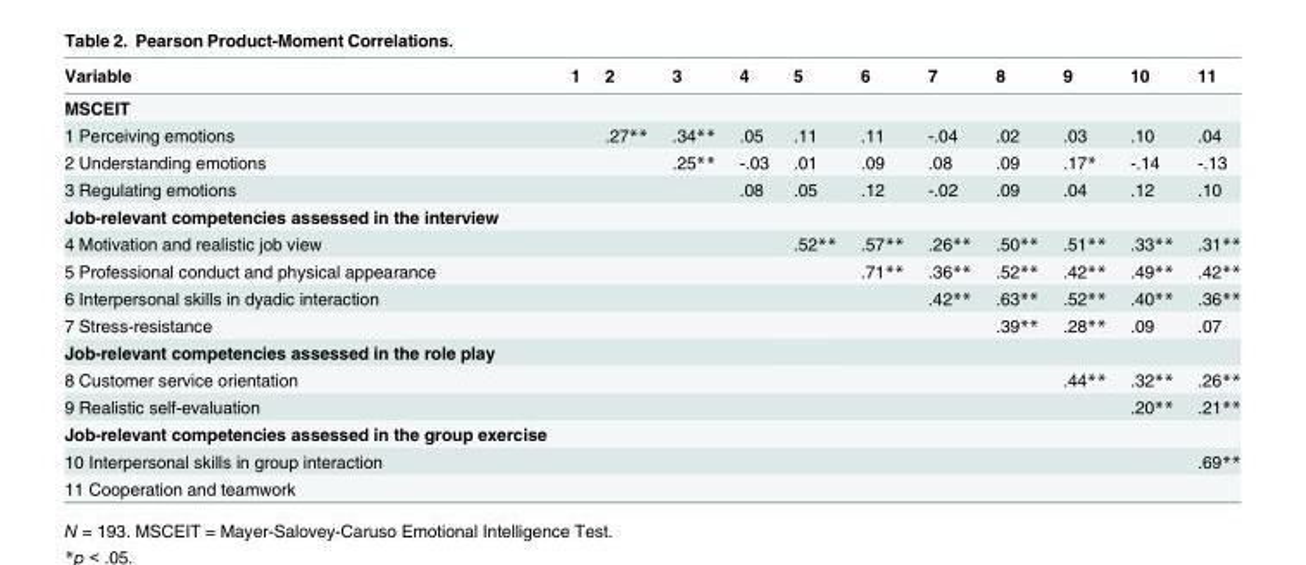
<table><thead><tr><td>Variable</td><td>1</td><td>2</td><td>3</td><td>4</td><td>5</td><td>6</td><td>7</td><td>8</td><td>9</td><td>10</td><td>11</td></tr></thead><tbody><tr><td colspan="12">MSCEIT</td></tr><tr><td>1 Perceiving emotions</td><td></td><td>.27**</td><td>.34**</td><td>.05</td><td>.11</td><td>.11</td><td>-.04</td><td>.02</td><td>.03</td><td>.10</td><td>.04</td></tr><tr><td>2 Understanding emotions</td><td></td><td></td><td>.25**</td><td>-.03</td><td>.01</td><td>.09</td><td>.08</td><td>.09</td><td>.17*</td><td>-.14</td><td>-.13</td></tr><tr><td>3 Regulating emotions</td><td></td><td></td><td></td><td>.08</td><td>.05</td><td>.12</td><td>-.02</td><td>.09</td><td>.04</td><td>.12</td><td>.10</td></tr><tr><td colspan="12">Job-relevant competencies assessed in the interview</td></tr><tr><td>4 Motivation and realistic job view</td><td></td><td></td><td></td><td></td><td>.52**</td><td>.57**</td><td>.26**</td><td>.50**</td><td>.51**</td><td>.33**</td><td>.31**</td></tr><tr><td>5 Professional conduct and physical appearance</td><td></td><td></td><td></td><td></td><td></td><td>.71**</td><td>.36**</td><td>.52**</td><td>.42**</td><td>.49**</td><td>.42**</td></tr><tr><td>6 Interpersonal skills in dyadic interaction</td><td></td><td></td><td></td><td></td><td></td><td></td><td>.42**</td><td>.63**</td><td>.52**</td><td>.40**</td><td>.36**</td></tr><tr><td>7 Stress-resistance</td><td></td><td></td><td></td><td></td><td></td><td></td><td></td><td>.39**</td><td>.28**</td><td>.09</td><td>.07</td></tr><tr><td colspan="12">Job-relevant competencies assessed in the role play</td></tr><tr><td>8 Customer service orientation</td><td></td><td></td><td></td><td></td><td></td><td></td><td></td><td></td><td>.44**</td><td>.32**</td><td>.26**</td></tr><tr><td>9 Realistic self-evaluation</td><td></td><td></td><td></td><td></td><td></td><td></td><td></td><td></td><td></td><td>.20**</td><td>.21**</td></tr><tr><td colspan="12">Job-relevant competencies assessed in the group exercise</td></tr><tr><td>10 Interpersonal skills in group interaction</td><td></td><td></td><td></td><td></td><td></td><td></td><td></td><td></td><td></td><td></td><td>.69**</td></tr><tr><td>11 Cooperation and teamwork</td><td></td><td></td><td></td><td></td><td></td><td></td><td></td><td></td><td></td><td></td><td></td></tr></tbody></table>